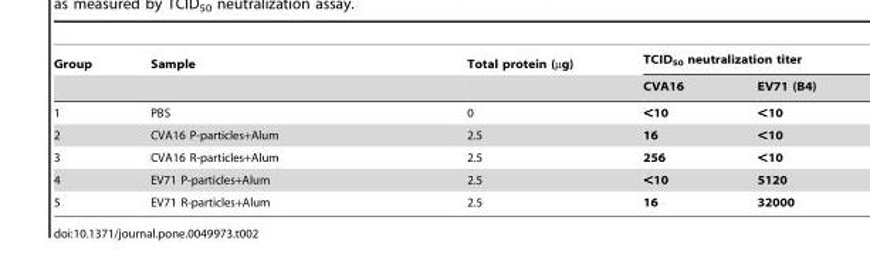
<table><thead><tr><td rowspan="2">Group</td><td rowspan="2">Sample</td><td rowspan="2">Total protein (µg)</td><td colspan="2">TCID<sub>50</sub> neutralization titer</td></tr><tr><td>CVA16</td><td>EV71 (B4)</td></tr></thead><tbody><tr><td>1</td><td>PBS</td><td>0</td><td>&lt;10</td><td>&lt;10</td></tr><tr><td>2</td><td>CVA16 P-particles+Alum</td><td>2.5</td><td>16</td><td>&lt;10</td></tr><tr><td>3</td><td>CVA16 R-particles+Alum</td><td>2.5</td><td>256</td><td>&lt;10</td></tr><tr><td>4</td><td>EV71 P-particles+Alum</td><td>2.5</td><td>&lt;10</td><td>5120</td></tr><tr><td>5</td><td>EV71 R-particles+Alum</td><td>2.5</td><td>16</td><td>32000</td></tr></tbody></table>